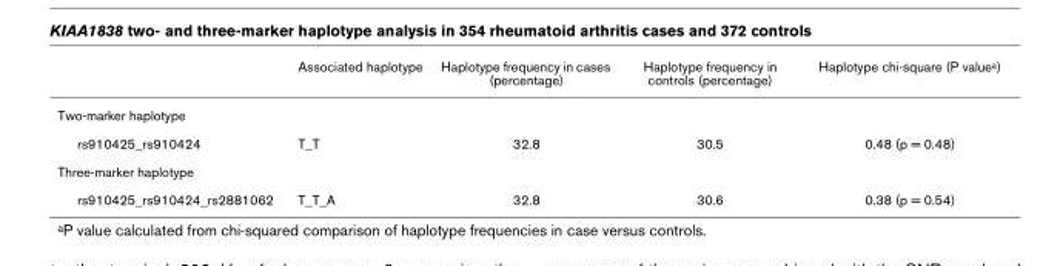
<table><thead><tr><td></td><td>Associated haplotype</td><td>Haplotype frequency in cases (percentage)</td><td>Haplotype frequency in controls (percentage)</td><td>Haplotype chi-square (P valuea)</td></tr></thead><tbody><tr><td colspan="5">Two-marker haplotype</td></tr><tr><td>rs910425_rs910424</td><td>T_T</td><td>32.8</td><td>30.5</td><td>0.48 (p = 0.48)</td></tr><tr><td colspan="5">Three-marker haplotype</td></tr><tr><td>rs910425_rs910424_rs2881062</td><td>T_T_A</td><td>32.8</td><td>30.6</td><td>0.38 (p = 0.54)</td></tr></tbody></table>